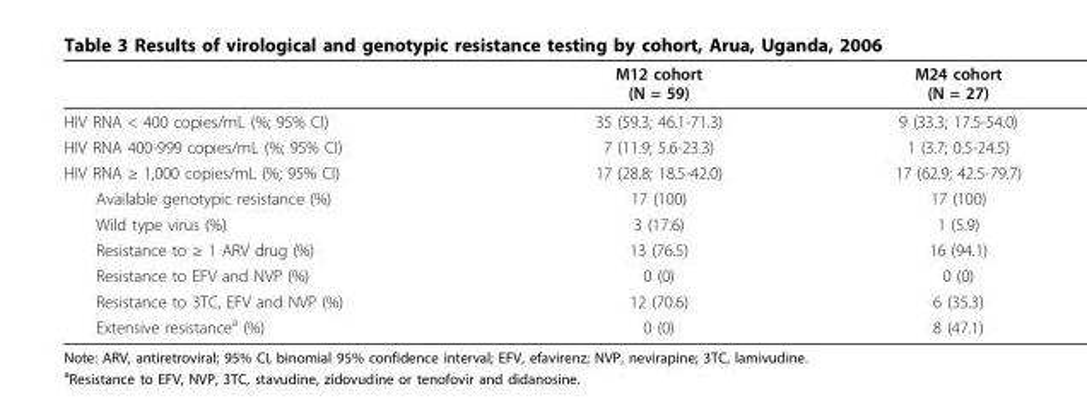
<table><thead><tr><td></td><td>M12 cohort (N = 59)</td><td>M24 cohort (N = 27)</td></tr></thead><tbody><tr><td>HIV RNA &lt; 400 copies/mL (%; 95% CI)</td><td>35 (59.3; 46.1-71.3)</td><td>9 (33.3; 17.5-54.0)</td></tr><tr><td>HIV RNA 400-999 copies/mL (%; 95% CI)</td><td>7 (11.9; 5.6-23.3)</td><td>1 (3.7; 0.5-24.5)</td></tr><tr><td>HIV RNA ≥ 1,000 copies/mL (%; 95% CI)</td><td>17 (28.8; 18.5-42.0)</td><td>17 (62.9; 42.5-79.7)</td></tr><tr><td>Available genotypic resistance (%)</td><td>17 (100)</td><td>17 (100)</td></tr><tr><td>Wild type virus (%)</td><td>3 (17.6)</td><td>1 (5.9)</td></tr><tr><td>Resistance to ≥ 1 ARV drug (%)</td><td>13 (76.5)</td><td>16 (94.1)</td></tr><tr><td>Resistance to EFV and NVP (%)</td><td>0 (0)</td><td>0 (0)</td></tr><tr><td>Resistance to 3TC, EFV and NVP (%)</td><td>12 (70.6)</td><td>6 (35.3)</td></tr><tr><td>Extensive resistance<sup>a</sup> (%)</td><td>0 (0)</td><td>8 (47.1)</td></tr></tbody></table>